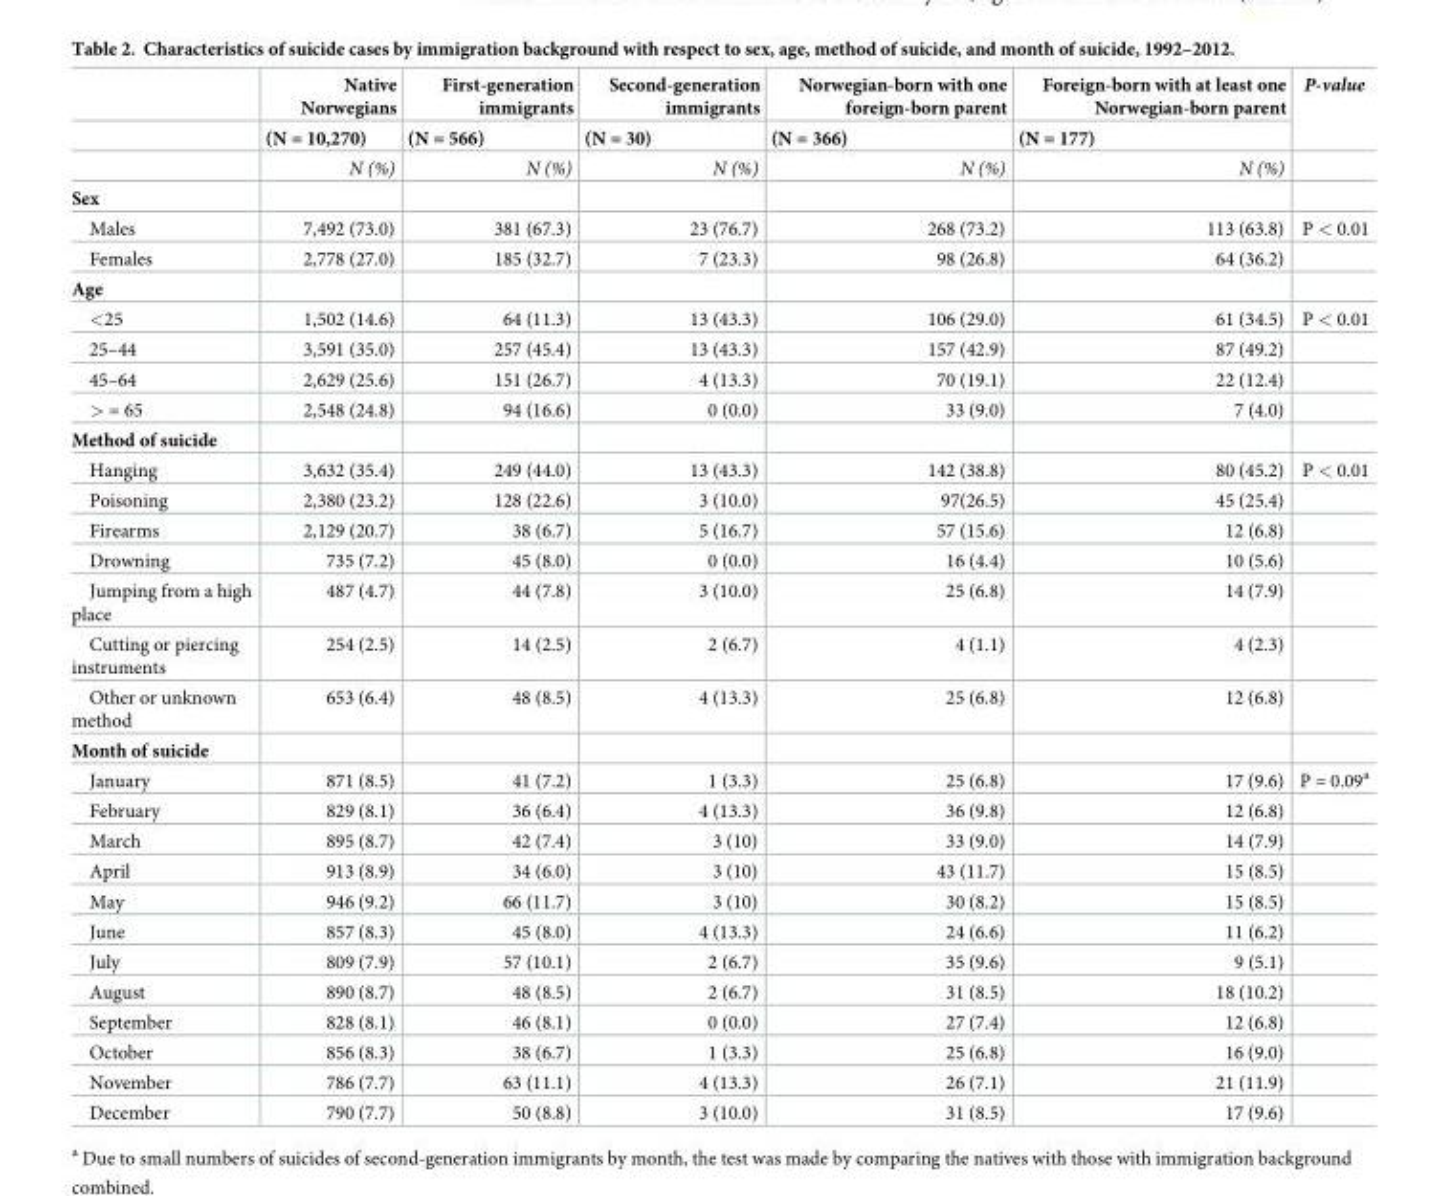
<table><thead><tr><td rowspan="2"></td><td rowspan="2">Native Norwegians (N = 10,270)</td><td rowspan="2">First-generation immigrants (N = 566)</td><td rowspan="2">Second-generation immigrants (N = 30)</td><td rowspan="2">Norwegian-born with one foreign-born parent (N = 366)</td><td rowspan="2">Foreign-born with at least one Norwegian-born parent (N = 177)</td><td rowspan="2">P-value</td></tr><tr></tr></thead><tbody><tr><td></td><td>N (%)</td><td>N (%)</td><td>N (%)</td><td>N (%)</td><td>N (%)</td><td></td></tr><tr><td colspan="7">Sex</td></tr><tr><td>Males</td><td>7,492 (73.0)</td><td>381 (67.3)</td><td>23 (76.7)</td><td>268 (73.2)</td><td>113 (63.8)</td><td>P &lt; 0.01</td></tr><tr><td>Females</td><td>2,778 (27.0)</td><td>185 (32.7)</td><td>7 (23.3)</td><td>98 (26.8)</td><td>64 (36.2)</td><td></td></tr><tr><td colspan="7">Age</td></tr><tr><td>&lt;25</td><td>1,502 (14.6)</td><td>64 (11.3)</td><td>13 (43.3)</td><td>106 (29.0)</td><td>61 (34.5)</td><td>P &lt; 0.01</td></tr><tr><td>25–44</td><td>3,591 (35.0)</td><td>257 (45.4)</td><td>13 (43.3)</td><td>157 (42.9)</td><td>87 (49.2)</td><td></td></tr><tr><td>45–64</td><td>2,629 (25.6)</td><td>151 (26.7)</td><td>4 (13.3)</td><td>70 (19.1)</td><td>22 (12.4)</td><td></td></tr><tr><td>&gt; = 65</td><td>2,548 (24.8)</td><td>94 (16.6)</td><td>0 (0.0)</td><td>33 (9.0)</td><td>7 (4.0)</td><td></td></tr><tr><td colspan="7">Method of suicide</td></tr><tr><td>Hanging</td><td>3,632 (35.4)</td><td>249 (44.0)</td><td>13 (43.3)</td><td>142 (38.8)</td><td>80 (45.2)</td><td>P &lt; 0.01</td></tr><tr><td>Poisoning</td><td>2,380 (23.2)</td><td>128 (22.6)</td><td>3 (10.0)</td><td>97(26.5)</td><td>45 (25.4)</td><td></td></tr><tr><td>Firearms</td><td>2,129 (20.7)</td><td>38 (6.7)</td><td>5 (16.7)</td><td>57 (15.6)</td><td>12 (6.8)</td><td></td></tr><tr><td>Drowning</td><td>735 (7.2)</td><td>45 (8.0)</td><td>0 (0.0)</td><td>16 (4.4)</td><td>10 (5.6)</td><td></td></tr><tr><td>Jumping from a high place</td><td>487 (4.7)</td><td>44 (7.8)</td><td>3 (10.0)</td><td>25 (6.8)</td><td>14 (7.9)</td><td></td></tr><tr><td>Cutting or piercing instruments</td><td>254 (2.5)</td><td>14 (2.5)</td><td>2 (6.7)</td><td>4 (1.1)</td><td>4 (2.3)</td><td></td></tr><tr><td>Other or unknown method</td><td>653 (6.4)</td><td>48 (8.5)</td><td>4 (13.3)</td><td>25 (6.8)</td><td>12 (6.8)</td><td></td></tr><tr><td colspan="7">Month of suicide</td></tr><tr><td>January</td><td>871 (8.5)</td><td>41 (7.2)</td><td>1 (3.3)</td><td>25 (6.8)</td><td>17 (9.6)</td><td>P = 0.09<sup>a</sup></td></tr><tr><td>February</td><td>829 (8.1)</td><td>36 (6.4)</td><td>4 (13.3)</td><td>36 (9.8)</td><td>12 (6.8)</td><td></td></tr><tr><td>March</td><td>895 (8.7)</td><td>42 (7.4)</td><td>3 (10)</td><td>33 (9.0)</td><td>14 (7.9)</td><td></td></tr><tr><td>April</td><td>913 (8.9)</td><td>34 (6.0)</td><td>3 (10)</td><td>43 (11.7)</td><td>15 (8.5)</td><td></td></tr><tr><td>May</td><td>946 (9.2)</td><td>66 (11.7)</td><td>3 (10)</td><td>30 (8.2)</td><td>15 (8.5)</td><td></td></tr><tr><td>June</td><td>857 (8.3)</td><td>45 (8.0)</td><td>4 (13.3)</td><td>24 (6.6)</td><td>11 (6.2)</td><td></td></tr><tr><td>July</td><td>809 (7.9)</td><td>57 (10.1)</td><td>2 (6.7)</td><td>35 (9.6)</td><td>9 (5.1)</td><td></td></tr><tr><td>August</td><td>890 (8.7)</td><td>48 (8.5)</td><td>2 (6.7)</td><td>31 (8.5)</td><td>18 (10.2)</td><td></td></tr><tr><td>September</td><td>828 (8.1)</td><td>46 (8.1)</td><td>0 (0.0)</td><td>27 (7.4)</td><td>12 (6.8)</td><td></td></tr><tr><td>October</td><td>856 (8.3)</td><td>38 (6.7)</td><td>1 (3.3)</td><td>25 (6.8)</td><td>16 (9.0)</td><td></td></tr><tr><td>November</td><td>786 (7.7)</td><td>63 (11.1)</td><td>4 (13.3)</td><td>26 (7.1)</td><td>21 (11.9)</td><td></td></tr><tr><td>December</td><td>790 (7.7)</td><td>50 (8.8)</td><td>3 (10.0)</td><td>31 (8.5)</td><td>17 (9.6)</td><td></td></tr></tbody></table>